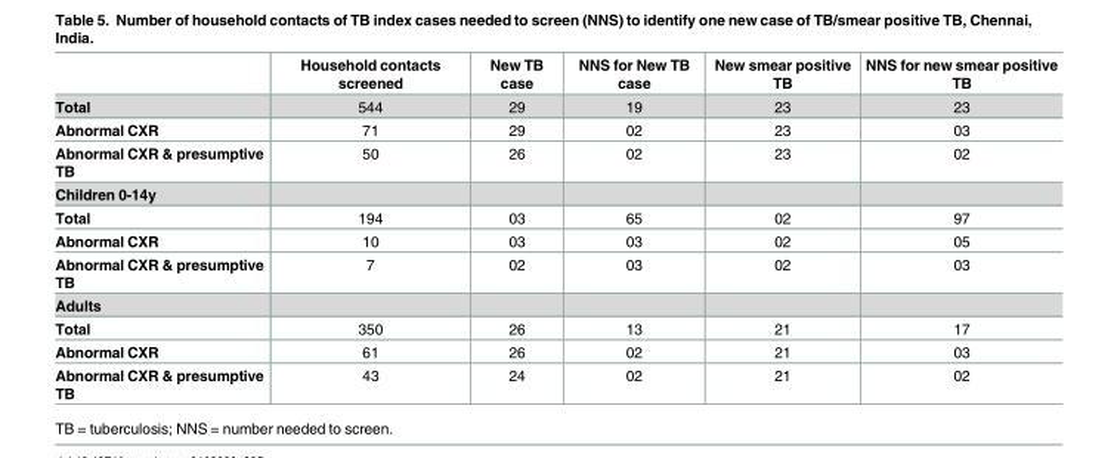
<table><thead><tr><td></td><td>Household contacts screened</td><td>New TB case</td><td>NNS for New TB case</td><td>New smear positive TB</td><td>NNS for new smear positive TB</td></tr></thead><tbody><tr><td>Total</td><td>544</td><td>29</td><td>19</td><td>23</td><td>23</td></tr><tr><td>Abnormal CXR</td><td>71</td><td>29</td><td>02</td><td>23</td><td>03</td></tr><tr><td>Abnormal CXR &amp; presumptive TB</td><td>50</td><td>26</td><td>02</td><td>23</td><td>02</td></tr><tr><td colspan="6">Children 0-14y</td></tr><tr><td>Total</td><td>194</td><td>03</td><td>65</td><td>02</td><td>97</td></tr><tr><td>Abnormal CXR</td><td>10</td><td>03</td><td>03</td><td>02</td><td>05</td></tr><tr><td>Abnormal CXR &amp; presumptive TB</td><td>7</td><td>02</td><td>03</td><td>02</td><td>03</td></tr><tr><td colspan="6">Adults</td></tr><tr><td>Total</td><td>350</td><td>26</td><td>13</td><td>21</td><td>17</td></tr><tr><td>Abnormal CXR</td><td>61</td><td>26</td><td>02</td><td>21</td><td>03</td></tr><tr><td>Abnormal CXR &amp; presumptive TB</td><td>43</td><td>24</td><td>02</td><td>21</td><td>02</td></tr></tbody></table>